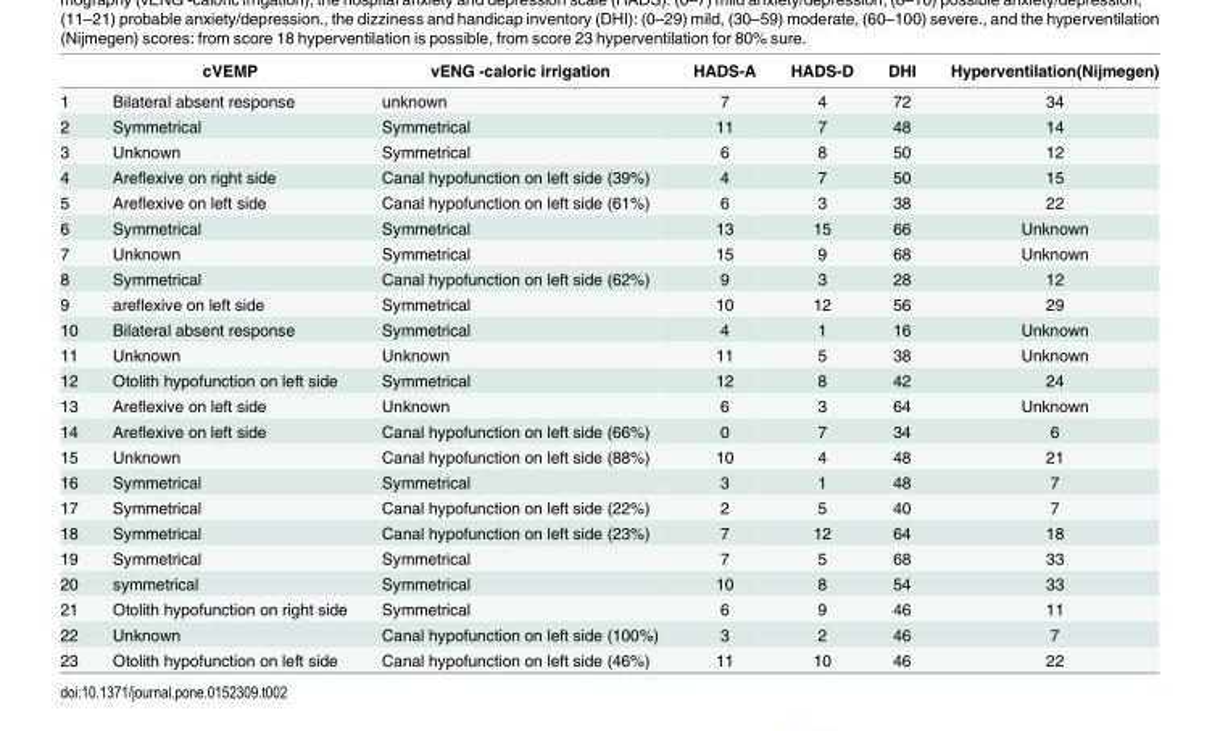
<table><thead><tr><td></td><td>cVEMP</td><td>vENG -caloric irrigation</td><td>HADS-A</td><td>HADS-D</td><td>DHI</td><td>Hyperventilation(Nijmegen)</td></tr></thead><tbody><tr><td>1</td><td>Bilateral absent response</td><td>unknown</td><td>7</td><td>4</td><td>72</td><td>34</td></tr><tr><td>2</td><td>Symmetrical</td><td>Symmetrical</td><td>11</td><td>7</td><td>48</td><td>14</td></tr><tr><td>3</td><td>Unknown</td><td>Symmetrical</td><td>6</td><td>8</td><td>50</td><td>12</td></tr><tr><td>4</td><td>Areflexive on right side</td><td>Canal hypofunction on left side (39%)</td><td>4</td><td>7</td><td>50</td><td>15</td></tr><tr><td>5</td><td>Areflexive on left side</td><td>Canal hypofunction on left side (61%)</td><td>6</td><td>3</td><td>38</td><td>22</td></tr><tr><td>6</td><td>Symmetrical</td><td>Symmetrical</td><td>13</td><td>15</td><td>66</td><td>Unknown</td></tr><tr><td>7</td><td>Unknown</td><td>Symmetrical</td><td>15</td><td>9</td><td>68</td><td>Unknown</td></tr><tr><td>8</td><td>Symmetrical</td><td>Canal hypofunction on left side (62%)</td><td>9</td><td>3</td><td>28</td><td>12</td></tr><tr><td>9</td><td>areflexive on left side</td><td>Symmetrical</td><td>10</td><td>12</td><td>56</td><td>29</td></tr><tr><td>10</td><td>Bilateral absent response</td><td>Symmetrical</td><td>4</td><td>1</td><td>16</td><td>Unknown</td></tr><tr><td>11</td><td>Unknown</td><td>Unknown</td><td>11</td><td>5</td><td>38</td><td>Unknown</td></tr><tr><td>12</td><td>Otolith hypofunction on left side</td><td>Symmetrical</td><td>12</td><td>8</td><td>42</td><td>24</td></tr><tr><td>13</td><td>Areflexive on left side</td><td>Unknown</td><td>6</td><td>3</td><td>64</td><td>Unknown</td></tr><tr><td>14</td><td>Areflexive on left side</td><td>Canal hypofunction on left side (66%)</td><td>0</td><td>7</td><td>34</td><td>6</td></tr><tr><td>15</td><td>Unknown</td><td>Canal hypofunction on left side (88%)</td><td>10</td><td>4</td><td>48</td><td>21</td></tr><tr><td>16</td><td>Symmetrical</td><td>Symmetrical</td><td>3</td><td>1</td><td>48</td><td>7</td></tr><tr><td>17</td><td>Symmetrical</td><td>Canal hypofunction on left side (22%)</td><td>2</td><td>5</td><td>40</td><td>7</td></tr><tr><td>18</td><td>Symmetrical</td><td>Canal hypofunction on left side (23%)</td><td>7</td><td>12</td><td>64</td><td>18</td></tr><tr><td>19</td><td>Symmetrical</td><td>Symmetrical</td><td>7</td><td>5</td><td>68</td><td>33</td></tr><tr><td>20</td><td>symmetrical</td><td>Symmetrical</td><td>10</td><td>8</td><td>54</td><td>33</td></tr><tr><td>21</td><td>Otolith hypofunction on right side</td><td>Symmetrical</td><td>6</td><td>9</td><td>46</td><td>11</td></tr><tr><td>22</td><td>Unknown</td><td>Canal hypofunction on left side (100%)</td><td>3</td><td>2</td><td>46</td><td>7</td></tr><tr><td>23</td><td>Otolith hypofunction on left side</td><td>Canal hypofunction on left side (46%)</td><td>11</td><td>10</td><td>46</td><td>22</td></tr></tbody></table>